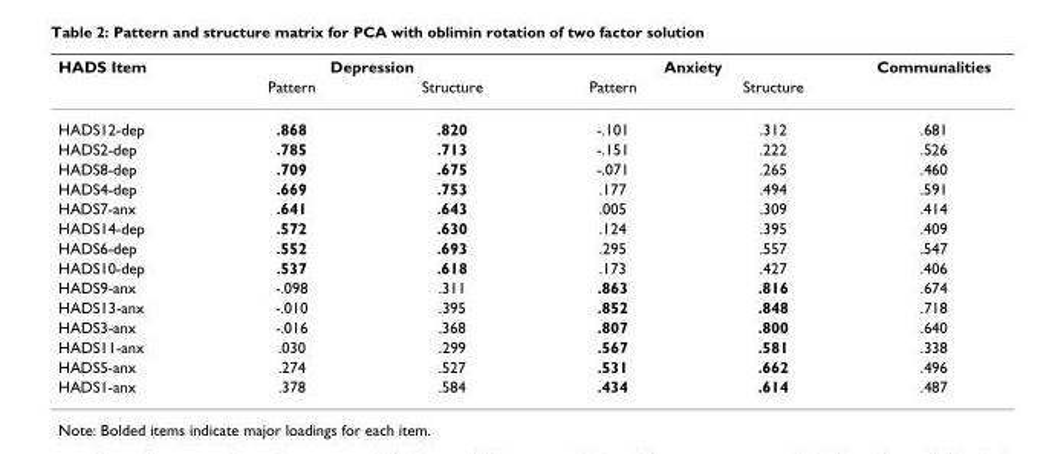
<table><thead><tr><td rowspan="2">HADS Item</td><td colspan="2">Depression</td><td colspan="2">Anxiety</td><td rowspan="2">Communalities</td></tr><tr><td>Pattern</td><td>Structure</td><td>Pattern</td><td>Structure</td></tr></thead><tbody><tr><td>HADS12-dep</td><td>.868</td><td>.820</td><td>-.101</td><td>.312</td><td>.681</td></tr><tr><td>HADS2-dep</td><td>.785</td><td>.713</td><td>-.151</td><td>.222</td><td>.526</td></tr><tr><td>HADS8-dep</td><td>.709</td><td>.675</td><td>-.071</td><td>.265</td><td>.460</td></tr><tr><td>HADS4-dep</td><td>.669</td><td>.753</td><td>.177</td><td>.494</td><td>.591</td></tr><tr><td>HADS7-anx</td><td>.641</td><td>.643</td><td>.005</td><td>.309</td><td>.414</td></tr><tr><td>HADS14-dep</td><td>.572</td><td>.630</td><td>.124</td><td>.395</td><td>.409</td></tr><tr><td>HADS6-dep</td><td>.552</td><td>.693</td><td>.295</td><td>.557</td><td>.547</td></tr><tr><td>HADS10-dep</td><td>.537</td><td>.618</td><td>.173</td><td>.427</td><td>.406</td></tr><tr><td>HADS9-anx</td><td>-.098</td><td>.311</td><td>.863</td><td>.816</td><td>.674</td></tr><tr><td>HADS13-anx</td><td>-.010</td><td>.395</td><td>.852</td><td>.848</td><td>.718</td></tr><tr><td>HADS3-anx</td><td>-.016</td><td>.368</td><td>.807</td><td>.800</td><td>.640</td></tr><tr><td>HADS11-anx</td><td>.030</td><td>.299</td><td>.567</td><td>.581</td><td>.338</td></tr><tr><td>HADS5-anx</td><td>.274</td><td>.527</td><td>.531</td><td>.662</td><td>.496</td></tr><tr><td>HADS1-anx</td><td>.378</td><td>.584</td><td>.434</td><td>.614</td><td>.487</td></tr></tbody></table>